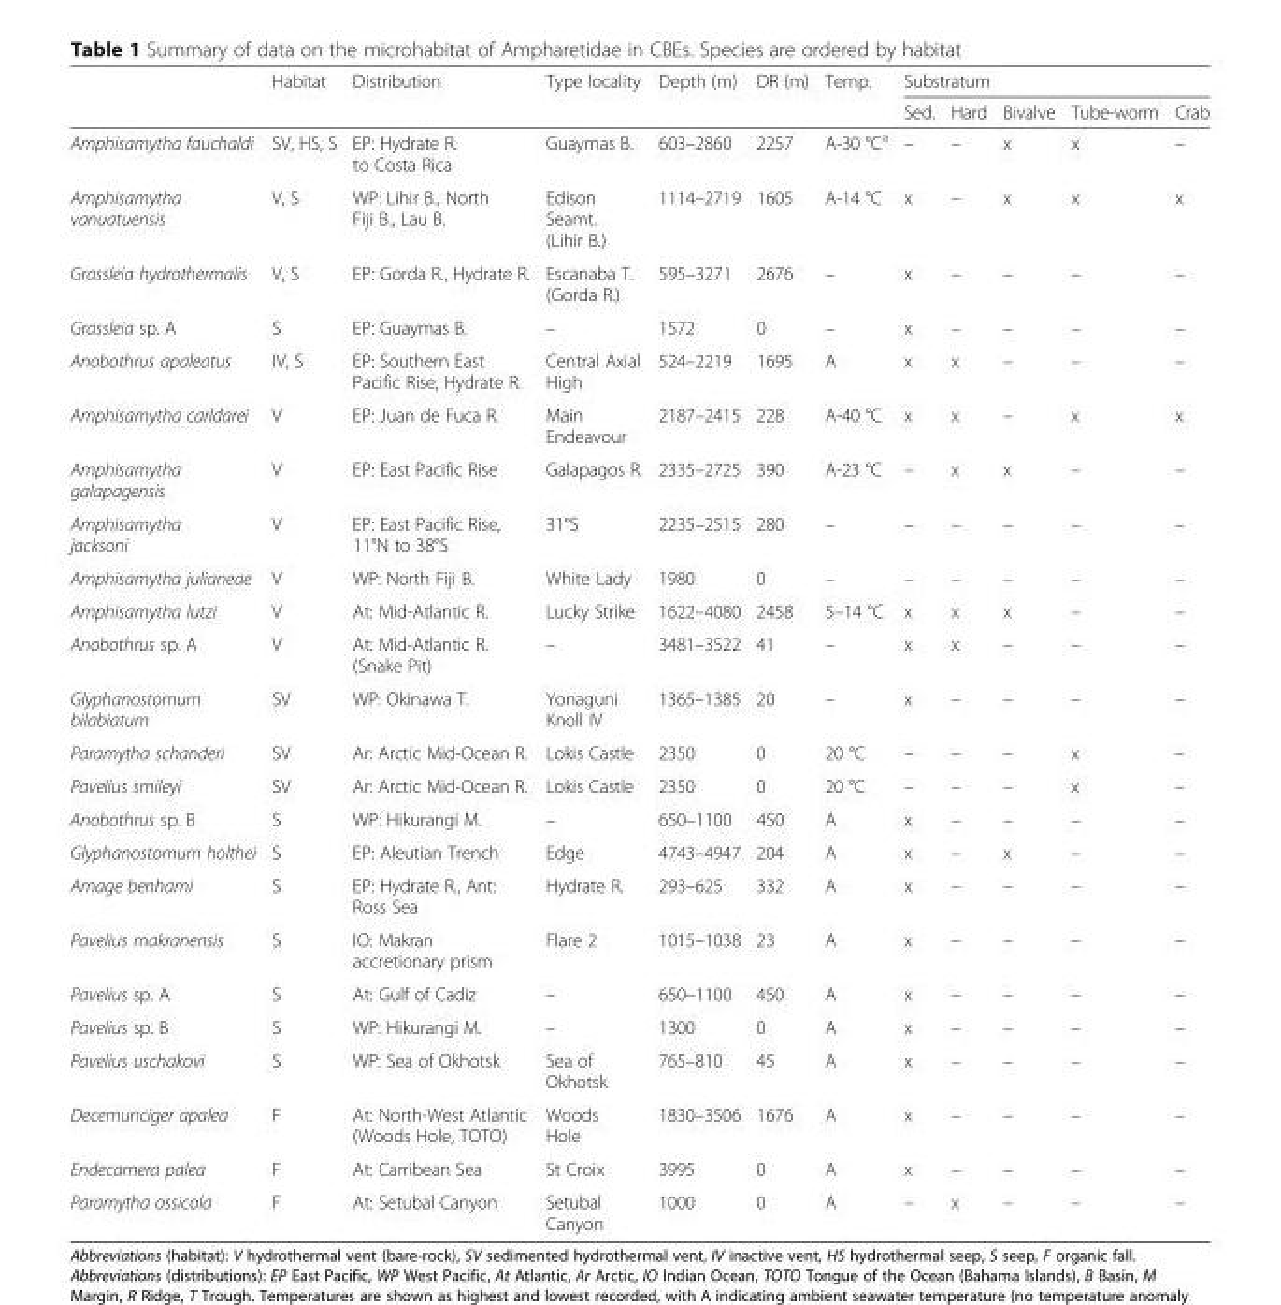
<table><thead><tr><td rowspan="2"></td><td rowspan="2">Habitat</td><td rowspan="2">Distribution</td><td rowspan="2">Type locality</td><td rowspan="2">Depth (m)</td><td rowspan="2">DR (m)</td><td rowspan="2">Temp.</td><td colspan="5">Substratum</td></tr><tr><td>Sed.</td><td>Hard</td><td>Bivalve</td><td>Tube-worm</td><td>Crab</td></tr></thead><tbody><tr><td>Amphisamytha fauchaldi</td><td>SV, HS, S</td><td>EP: Hydrate R. to Costa Rica</td><td>Guaymas B.</td><td>603–2860</td><td>2257</td><td>A-30 °C<sup>a</sup></td><td>–</td><td>–</td><td>x</td><td>x</td><td>–</td></tr><tr><td>Amphisamytha vanuatuensis</td><td>V, S</td><td>WP: Lihir B., North Fiji B., Lau B.</td><td>Edison Seamt. (Lihir B.)</td><td>1114–2719</td><td>1605</td><td>A-14 °C</td><td>x</td><td>–</td><td>x</td><td>x</td><td>x</td></tr><tr><td>Grassleia hydrothermalis</td><td>V, S</td><td>EP: Gorda R., Hydrate R.</td><td>Escanaba T. (Gorda R.)</td><td>595–3271</td><td>2676</td><td>–</td><td>x</td><td>–</td><td>–</td><td>–</td><td>–</td></tr><tr><td>Grassleia sp. A</td><td>S</td><td>EP: Guaymas B.</td><td>–</td><td>1572</td><td>0</td><td>–</td><td>x</td><td>–</td><td>–</td><td>–</td><td>–</td></tr><tr><td>Anobothrus apaleatus</td><td>IV, S</td><td>EP: Southern East Pacific Rise, Hydrate R.</td><td>Central Axial High</td><td>524–2219</td><td>1695</td><td>A</td><td>x</td><td>x</td><td>–</td><td>–</td><td>–</td></tr><tr><td>Amphisamytha carldarei</td><td>V</td><td>EP: Juan de Fuca R.</td><td>Main Endeavour</td><td>2187–2415</td><td>228</td><td>A-40 °C</td><td>x</td><td>x</td><td>–</td><td>x</td><td>x</td></tr><tr><td>Amphisamytha galapagensis</td><td>V</td><td>EP: East Pacific Rise</td><td>Galapagos R.</td><td>2335–2725</td><td>390</td><td>A-23 °C</td><td>–</td><td>x</td><td>x</td><td>–</td><td>–</td></tr><tr><td>Amphisamytha jacksoni</td><td>V</td><td>EP: East Pacific Rise, 11°N to 38°S</td><td>31°S</td><td>2235–2515</td><td>280</td><td>–</td><td>–</td><td>–</td><td>–</td><td>–</td><td>–</td></tr><tr><td>Amphisamytha julianeae</td><td>V</td><td>WP: North Fiji B.</td><td>White Lady</td><td>1980</td><td>0</td><td>–</td><td>–</td><td>–</td><td>–</td><td>–</td><td>–</td></tr><tr><td>Amphisamytha lutzi</td><td>V</td><td>At: Mid-Atlantic R.</td><td>Lucky Strike</td><td>1622–4080</td><td>2458</td><td>5–14 °C</td><td>x</td><td>x</td><td>x</td><td>–</td><td>–</td></tr><tr><td>Anobothrus sp. A</td><td>V</td><td>At: Mid-Atlantic R. (Snake Pit)</td><td>–</td><td>3481–3522</td><td>41</td><td>–</td><td>x</td><td>x</td><td>–</td><td>–</td><td>–</td></tr><tr><td>Glyphanostomum bilabiatum</td><td>SV</td><td>WP: Okinawa T.</td><td>Yonaguni Knoll IV</td><td>1365–1385</td><td>20</td><td>–</td><td>x</td><td>–</td><td>–</td><td>–</td><td>–</td></tr><tr><td>Paramytha schanderi</td><td>SV</td><td>Ar: Arctic Mid-Ocean R.</td><td>Lokis Castle</td><td>2350</td><td>0</td><td>20 °C</td><td>–</td><td>–</td><td>–</td><td>x</td><td>–</td></tr><tr><td>Pavelius smileyi</td><td>SV</td><td>Ar: Arctic Mid-Ocean R.</td><td>Lokis Castle</td><td>2350</td><td>0</td><td>20 °C</td><td>–</td><td>–</td><td>–</td><td>x</td><td>–</td></tr><tr><td>Anobothrus sp. B</td><td>S</td><td>WP: Hikurangi M.</td><td>–</td><td>650–1100</td><td>450</td><td>A</td><td>x</td><td>–</td><td>–</td><td>–</td><td>–</td></tr><tr><td>Glyphanostomum holthei</td><td>S</td><td>EP: Aleutian Trench</td><td>Edge</td><td>4743–4947</td><td>204</td><td>A</td><td>x</td><td>–</td><td>x</td><td>–</td><td>–</td></tr><tr><td>Amage benhami</td><td>S</td><td>EP: Hydrate R., Ant: Ross Sea</td><td>Hydrate R.</td><td>293–625</td><td>332</td><td>A</td><td>x</td><td>–</td><td>–</td><td>–</td><td>–</td></tr><tr><td>Pavelius makranensis</td><td>S</td><td>IO: Makran accretionary prism</td><td>Flare 2</td><td>1015–1038</td><td>23</td><td>A</td><td>x</td><td>–</td><td>–</td><td>–</td><td>–</td></tr><tr><td>Pavelius sp. A</td><td>S</td><td>At: Gulf of Cadiz</td><td>–</td><td>650–1100</td><td>450</td><td>A</td><td>x</td><td>–</td><td>–</td><td>–</td><td>–</td></tr><tr><td>Pavelius sp. B</td><td>S</td><td>WP: Hikurangi M.</td><td>–</td><td>1300</td><td>0</td><td>A</td><td>x</td><td>–</td><td>–</td><td>–</td><td>–</td></tr><tr><td>Pavelius uschakovi</td><td>S</td><td>WP: Sea of Okhotsk</td><td>Sea of Okhotsk</td><td>765–810</td><td>45</td><td>A</td><td>x</td><td>–</td><td>–</td><td>–</td><td>–</td></tr><tr><td>Decemunciger apalea</td><td>F</td><td>At: North-West Atlantic (Woods Hole, TOTO)</td><td>Woods Hole</td><td>1830–3506</td><td>1676</td><td>A</td><td>x</td><td>–</td><td>–</td><td>–</td><td>–</td></tr><tr><td>Endecamera palea</td><td>F</td><td>At: Carribean Sea</td><td>St Croix</td><td>3995</td><td>0</td><td>A</td><td>x</td><td>–</td><td>–</td><td>–</td><td>–</td></tr><tr><td>Paramytha ossicola</td><td>F</td><td>At: Setubal Canyon</td><td>Setubal Canyon</td><td>1000</td><td>0</td><td>A</td><td>–</td><td>x</td><td>–</td><td>–</td><td>–</td></tr></tbody></table>